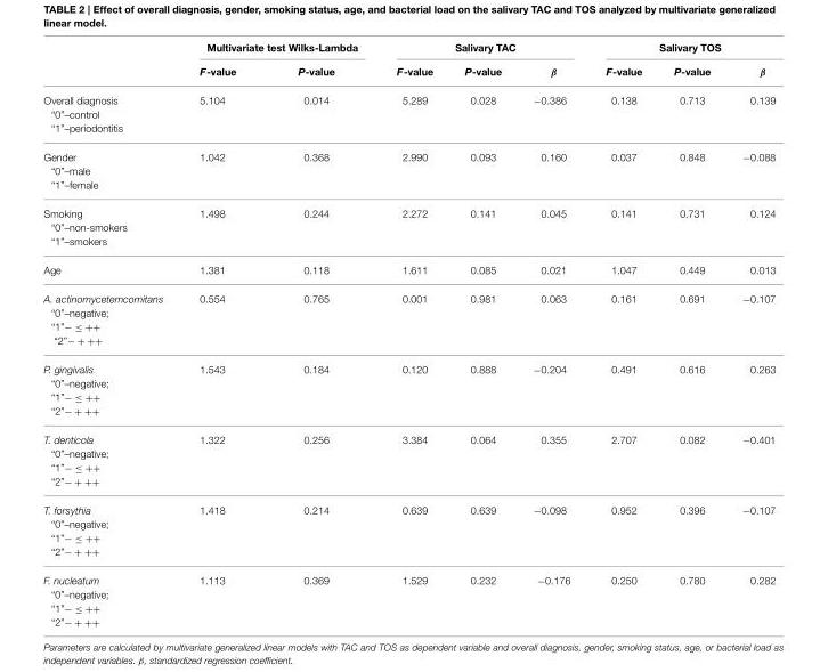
<table><thead><tr><td rowspan="2"></td><td colspan="2">Multivariate test Wilks-Lambda</td><td colspan="3">Salivary TAC</td><td colspan="3">Salivary TOS</td></tr><tr><td>F-value</td><td>P-value</td><td>F-value</td><td>P-value</td><td>β</td><td>F-value</td><td>P-value</td><td>β</td></tr></thead><tbody><tr><td>Overall diagnosis “0”–control “1”–periodontitis</td><td>5.104</td><td>0.014</td><td>5.289</td><td>0.028</td><td>−0.386</td><td>0.138</td><td>0.713</td><td>0.139</td></tr><tr><td>Gender “0”–male “1”–female</td><td>1.042</td><td>0.368</td><td>2.990</td><td>0.093</td><td>0.160</td><td>0.037</td><td>0.848</td><td>−0.088</td></tr><tr><td>Smoking “0”–non-smokers “1”–smokers</td><td>1.498</td><td>0.244</td><td>2.272</td><td>0.141</td><td>0.045</td><td>0.141</td><td>0.731</td><td>0.124</td></tr><tr><td>Age</td><td>1.381</td><td>0.118</td><td>1.611</td><td>0.085</td><td>0.021</td><td>1.047</td><td>0.449</td><td>0.013</td></tr><tr><td>A. actinomycetemcomitans “0”–negative; “1”− ≤ ++ “2”− + ++</td><td>0.554</td><td>0.765</td><td>0.001</td><td>0.981</td><td>0.063</td><td>0.161</td><td>0.691</td><td>−0.107</td></tr><tr><td>P. gingivalis “0”–negative; “1”− ≤ ++ “2”− + ++</td><td>1.543</td><td>0.184</td><td>0.120</td><td>0.888</td><td>−0.204</td><td>0.491</td><td>0.616</td><td>0.263</td></tr><tr><td>T. denticola “0”–negative; “1”− ≤ ++ “2”− + ++</td><td>1.322</td><td>0.256</td><td>3.384</td><td>0.064</td><td>0.355</td><td>2.707</td><td>0.082</td><td>−0.401</td></tr><tr><td>T. forsythia “0”–negative; “1”− ≤ ++ “2”− + ++</td><td>1.418</td><td>0.214</td><td>0.639</td><td>0.639</td><td>−0.098</td><td>0.952</td><td>0.396</td><td>−0.107</td></tr><tr><td>F. nucleatum “0”–negative; “1”− ≤ ++ “2”− + ++</td><td>1.113</td><td>0.369</td><td>1.529</td><td>0.232</td><td>−0.176</td><td>0.250</td><td>0.780</td><td>0.282</td></tr></tbody></table>